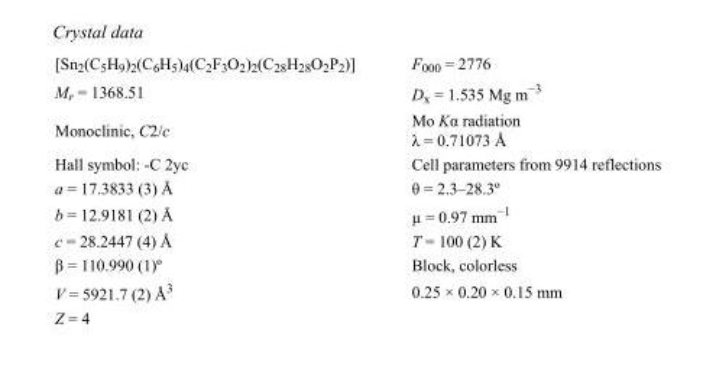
<table><tbody><tr><td>[Sn<sub>2</sub>(C<sub>5</sub>H<sub>9</sub>)<sub>2</sub>(C<sub>6</sub>H<sub>5</sub>)<sub>4</sub>(C<sub>2</sub>F<sub>3</sub>O<sub>2</sub>)<sub>2</sub>(C<sub>28</sub>H<sub>28</sub>O<sub>2</sub>P<sub>2</sub>)]</td><td>F<sub>000</sub> = 2776</td></tr><tr><td>M<sub>r</sub> = 1368.51</td><td>D<sub>x</sub> = 1.535 Mg m<sup>−3</sup></td></tr><tr><td>Monoclinic, C2/c</td><td>Mo Kα radiation λ = 0.71073 Å</td></tr><tr><td>Hall symbol: -C 2yc</td><td>Cell parameters from 9914 reflections</td></tr><tr><td>a = 17.3833 (3) Å</td><td>θ = 2.3–28.3º</td></tr><tr><td>b = 12.9181 (2) Å</td><td>µ = 0.97 mm<sup>−1</sup></td></tr><tr><td>c = 28.2447 (4) Å</td><td>T = 100 (2) K</td></tr><tr><td>β = 110.990 (1)º</td><td>Block, colorless</td></tr><tr><td>V = 5921.7 (2) Å<sup>3</sup></td><td>0.25 × 0.20 × 0.15 mm</td></tr><tr><td>Z = 4</td><td></td></tr></tbody></table>